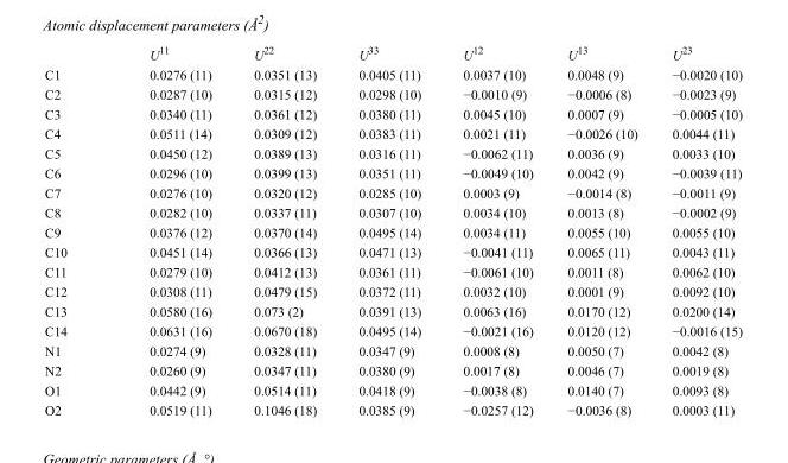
<table><thead><tr><td></td><td>U<sup>11</sup></td><td>U<sup>22</sup></td><td>U<sup>33</sup></td><td>U<sup>12</sup></td><td>U<sup>13</sup></td><td>U<sup>23</sup></td></tr></thead><tbody><tr><td>C1</td><td>0.0276 (11)</td><td>0.0351 (13)</td><td>0.0405 (11)</td><td>0.0037 (10)</td><td>0.0048 (9)</td><td>−0.0020 (10)</td></tr><tr><td>C2</td><td>0.0287 (10)</td><td>0.0315 (12)</td><td>0.0298 (10)</td><td>−0.0010 (9)</td><td>−0.0006 (8)</td><td>−0.0023 (9)</td></tr><tr><td>C3</td><td>0.0340 (11)</td><td>0.0361 (12)</td><td>0.0380 (11)</td><td>0.0045 (10)</td><td>0.0007 (9)</td><td>−0.0005 (10)</td></tr><tr><td>C4</td><td>0.0511 (14)</td><td>0.0309 (12)</td><td>0.0383 (11)</td><td>0.0021 (11)</td><td>−0.0026 (10)</td><td>0.0044 (11)</td></tr><tr><td>C5</td><td>0.0450 (12)</td><td>0.0389 (13)</td><td>0.0316 (11)</td><td>−0.0062 (11)</td><td>0.0036 (9)</td><td>0.0033 (10)</td></tr><tr><td>C6</td><td>0.0296 (10)</td><td>0.0399 (13)</td><td>0.0351 (11)</td><td>−0.0049 (10)</td><td>0.0042 (9)</td><td>−0.0039 (11)</td></tr><tr><td>C7</td><td>0.0276 (10)</td><td>0.0320 (12)</td><td>0.0285 (10)</td><td>0.0003 (9)</td><td>−0.0014 (8)</td><td>−0.0011 (9)</td></tr><tr><td>C8</td><td>0.0282 (10)</td><td>0.0337 (11)</td><td>0.0307 (10)</td><td>0.0034 (10)</td><td>0.0013 (8)</td><td>−0.0002 (9)</td></tr><tr><td>C9</td><td>0.0376 (12)</td><td>0.0370 (14)</td><td>0.0495 (14)</td><td>0.0034 (11)</td><td>0.0055 (10)</td><td>0.0055 (10)</td></tr><tr><td>C10</td><td>0.0451 (14)</td><td>0.0366 (13)</td><td>0.0471 (13)</td><td>−0.0041 (11)</td><td>0.0065 (11)</td><td>0.0043 (11)</td></tr><tr><td>C11</td><td>0.0279 (10)</td><td>0.0412 (13)</td><td>0.0361 (11)</td><td>−0.0061 (10)</td><td>0.0011 (8)</td><td>0.0062 (10)</td></tr><tr><td>C12</td><td>0.0308 (11)</td><td>0.0479 (15)</td><td>0.0372 (11)</td><td>0.0032 (10)</td><td>0.0001 (9)</td><td>0.0092 (10)</td></tr><tr><td>C13</td><td>0.0580 (16)</td><td>0.073 (2)</td><td>0.0391 (13)</td><td>0.0063 (16)</td><td>0.0170 (12)</td><td>0.0200 (14)</td></tr><tr><td>C14</td><td>0.0631 (16)</td><td>0.0670 (18)</td><td>0.0495 (14)</td><td>−0.0021 (16)</td><td>0.0120 (12)</td><td>−0.0016 (15)</td></tr><tr><td>N1</td><td>0.0274 (9)</td><td>0.0328 (11)</td><td>0.0347 (9)</td><td>0.0008 (8)</td><td>0.0050 (7)</td><td>0.0042 (8)</td></tr><tr><td>N2</td><td>0.0260 (9)</td><td>0.0347 (11)</td><td>0.0380 (9)</td><td>0.0017 (8)</td><td>0.0046 (7)</td><td>0.0019 (8)</td></tr><tr><td>O1</td><td>0.0442 (9)</td><td>0.0514 (11)</td><td>0.0418 (9)</td><td>−0.0038 (8)</td><td>0.0140 (7)</td><td>0.0093 (8)</td></tr><tr><td>O2</td><td>0.0519 (11)</td><td>0.1046 (18)</td><td>0.0385 (9)</td><td>−0.0257 (12)</td><td>−0.0036 (8)</td><td>0.0003 (11)</td></tr></tbody></table>